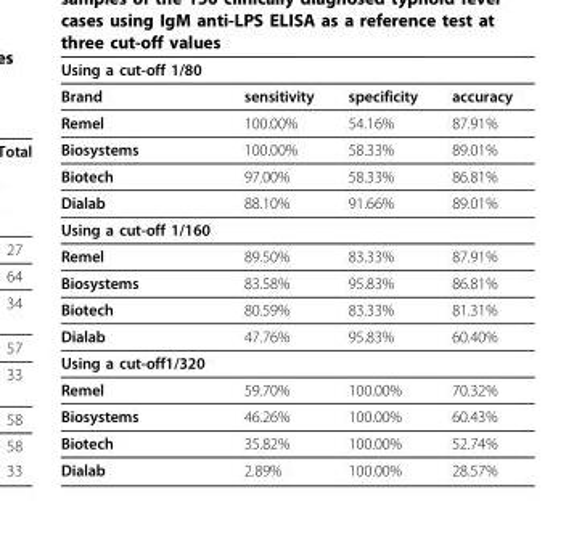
<table><thead><tr><td>Using a cut-off 1/80</td><td></td><td></td><td></td></tr></thead><tbody><tr><td>Brand</td><td>sensitivity</td><td>specificity</td><td>accuracy</td></tr><tr><td>Remel</td><td>100.00%</td><td>54.16%</td><td>87.91%</td></tr><tr><td>Biosystems</td><td>100.00%</td><td>58.33%</td><td>89.01%</td></tr><tr><td>Biotech</td><td>97.00%</td><td>58.33%</td><td>86.81%</td></tr><tr><td>Dialab</td><td>88.10%</td><td>91.66%</td><td>89.01%</td></tr><tr><td colspan="4">Using a cut-off 1/160</td></tr><tr><td>Remel</td><td>89.50%</td><td>83.33%</td><td>87.91%</td></tr><tr><td>Biosystems</td><td>83.58%</td><td>95.83%</td><td>86.81%</td></tr><tr><td>Biotech</td><td>80.59%</td><td>83.33%</td><td>81.31%</td></tr><tr><td>Dialab</td><td>47.76%</td><td>95.83%</td><td>60.40%</td></tr><tr><td colspan="4">Using a cut-off1/320</td></tr><tr><td>Remel</td><td>59.70%</td><td>100.00%</td><td>70.32%</td></tr><tr><td>Biosystems</td><td>46.26%</td><td>100.00%</td><td>60.43%</td></tr><tr><td>Biotech</td><td>35.82%</td><td>100.00%</td><td>52.74%</td></tr><tr><td>Dialab</td><td>2.89%</td><td>100.00%</td><td>28.57%</td></tr></tbody></table>